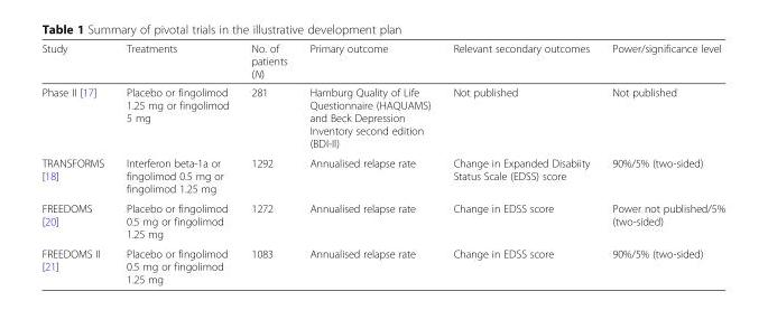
<table><thead><tr><td>Study</td><td>Treatments</td><td>No. of patients (N)</td><td>Primary outcome</td><td>Relevant secondary outcomes</td><td>Power/significance level</td></tr></thead><tbody><tr><td>Phase II [17]</td><td>Placebo or fingolimod 1.25 mg or fingolimod 5 mg</td><td>281</td><td>Hamburg Quality of Life Questionnaire (HAQUAMS) and Beck Depression Inventory second edition (BDI-II)</td><td>Not published</td><td>Not published</td></tr><tr><td>TRANSFORMS [18]</td><td>Interferon beta-1a or fingolimod 0.5 mg or fingolimod 1.25 mg</td><td>1292</td><td>Annualised relapse rate</td><td>Change in Expanded Disabiity Status Scale (EDSS) score</td><td>90%/5% (two-sided)</td></tr><tr><td>FREEDOMS [20]</td><td>Placebo or fingolimod 0.5 mg or fingolimod 1.25 mg</td><td>1272</td><td>Annualised relapse rate</td><td>Change in EDSS score</td><td>Power not published/5% (two-sided)</td></tr><tr><td>FREEDOMS II [21]</td><td>Placebo or fingolimod 0.5 mg or fingolimod 1.25 mg</td><td>1083</td><td>Annualised relapse rate</td><td>Change in EDSS score</td><td>90%/5% (two-sided)</td></tr></tbody></table>